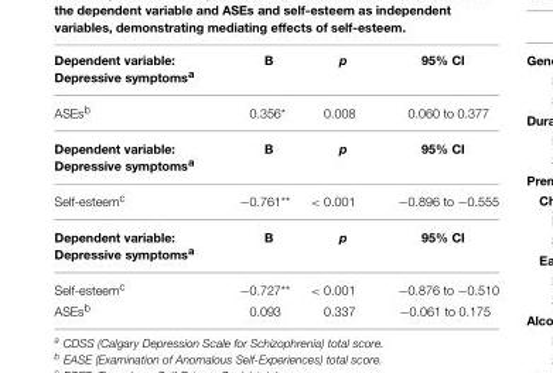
<table><thead><tr><td>Dependent variable: Depressive symptoms<sup>a</sup></td><td>B</td><td>p</td><td>95% CI</td></tr></thead><tbody><tr><td>ASEs<sup>b</sup></td><td>0.356*</td><td>0.008</td><td>0.060 to 0.377</td></tr><tr><td>Dependent variable: Depressive symptoms<sup>a</sup></td><td>B</td><td>p</td><td>95% CI</td></tr><tr><td>Self-esteem<sup>c</sup></td><td>−0.761**</td><td>&lt; 0.001</td><td>−0.896 to −0.555</td></tr><tr><td>Dependent variable: Depressive symptoms<sup>a</sup></td><td>B</td><td>p</td><td>95% CI</td></tr><tr><td>Self-esteem<sup>c</sup></td><td>−0.727**</td><td>&lt; 0.001</td><td>−0.876 to −0.510</td></tr><tr><td>ASEs<sup>b</sup></td><td>0.093</td><td>0.337</td><td>−0.061 to 0.175</td></tr></tbody></table>